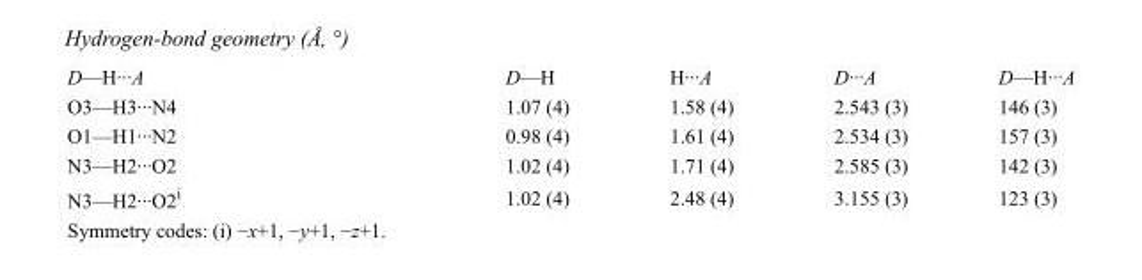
<table><tbody><tr><td>D—H···A</td><td>D—H</td><td>H···A</td><td>D···A</td><td>D—H···A</td></tr><tr><td>O3—H3···N4</td><td>1.07 (4)</td><td>1.58 (4)</td><td>2.543 (3)</td><td>146 (3)</td></tr><tr><td>O1—H1···N2</td><td>0.98 (4)</td><td>1.61 (4)</td><td>2.534 (3)</td><td>157 (3)</td></tr><tr><td>N3—H2···O2</td><td>1.02 (4)</td><td>1.71 (4)</td><td>2.585 (3)</td><td>142 (3)</td></tr><tr><td>N3—H2···O2<sup>i</sup></td><td>1.02 (4)</td><td>2.48 (4)</td><td>3.155 (3)</td><td>123 (3)</td></tr></tbody></table>